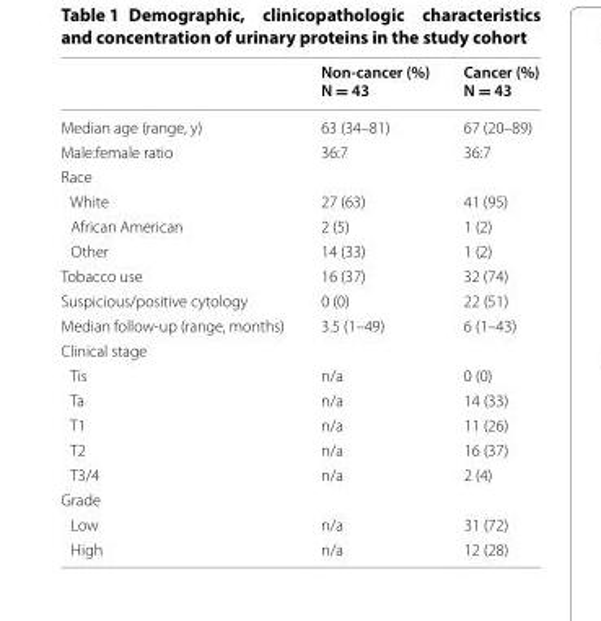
<table><thead><tr><td></td><td>Non-cancer (%) N = 43</td><td>Cancer (%) N = 43</td></tr></thead><tbody><tr><td>Median age (range, y)</td><td>63 (34–81)</td><td>67 (20–89)</td></tr><tr><td>Male:female ratio</td><td>36:7</td><td>36:7</td></tr><tr><td colspan="3">Race</td></tr><tr><td>White</td><td>27 (63)</td><td>41 (95)</td></tr><tr><td>African American</td><td>2 (5)</td><td>1 (2)</td></tr><tr><td>Other</td><td>14 (33)</td><td>1 (2)</td></tr><tr><td>Tobacco use</td><td>16 (37)</td><td>32 (74)</td></tr><tr><td>Suspicious/positive cytology</td><td>0 (0)</td><td>22 (51)</td></tr><tr><td>Median follow-up (range, months)</td><td>3.5 (1–49)</td><td>6 (1–43)</td></tr><tr><td colspan="3">Clinical stage</td></tr><tr><td>Tis</td><td>n/a</td><td>0 (0)</td></tr><tr><td>Ta</td><td>n/a</td><td>14 (33)</td></tr><tr><td>T1</td><td>n/a</td><td>11 (26)</td></tr><tr><td>T2</td><td>n/a</td><td>16 (37)</td></tr><tr><td>T3/4</td><td>n/a</td><td>2 (4)</td></tr><tr><td colspan="3">Grade</td></tr><tr><td>Low</td><td>n/a</td><td>31 (72)</td></tr><tr><td>High</td><td>n/a</td><td>12 (28)</td></tr></tbody></table>